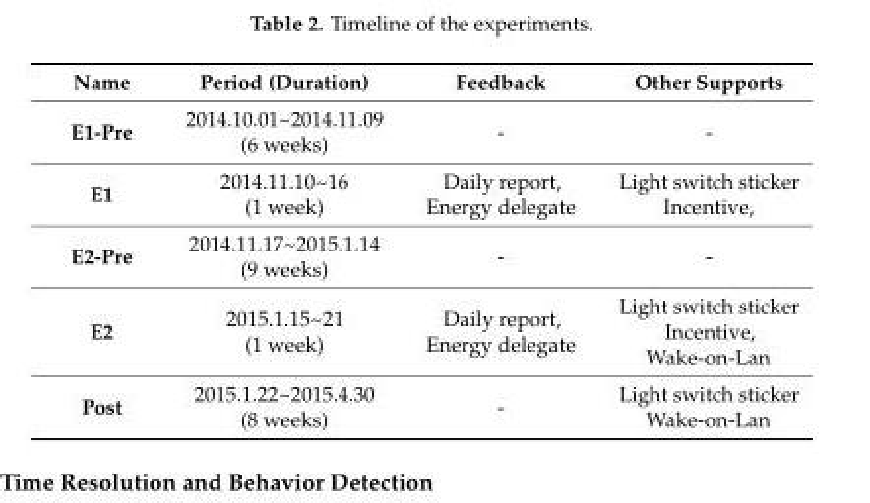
<table><thead><tr><td>Name</td><td>Period (Duration)</td><td>Feedback</td><td>Other Supports</td></tr></thead><tbody><tr><td>E1-Pre</td><td>2014.10.01~2014.11.09 (6 weeks)</td><td>-</td><td>-</td></tr><tr><td>E1</td><td>2014.11.10~16 (1 week)</td><td>Daily report, Energy delegate</td><td>Light switch sticker Incentive,</td></tr><tr><td>E2-Pre</td><td>2014.11.17~2015.1.14 (9 weeks)</td><td>-</td><td>-</td></tr><tr><td>E2</td><td>2015.1.15~21 (1 week)</td><td>Daily report, Energy delegate</td><td>Light switch sticker Incentive, Wake-on-Lan</td></tr><tr><td>Post</td><td>2015.1.22~2015.4.30 (8 weeks)</td><td>-</td><td>Light switch sticker Wake-on-Lan</td></tr></tbody></table>